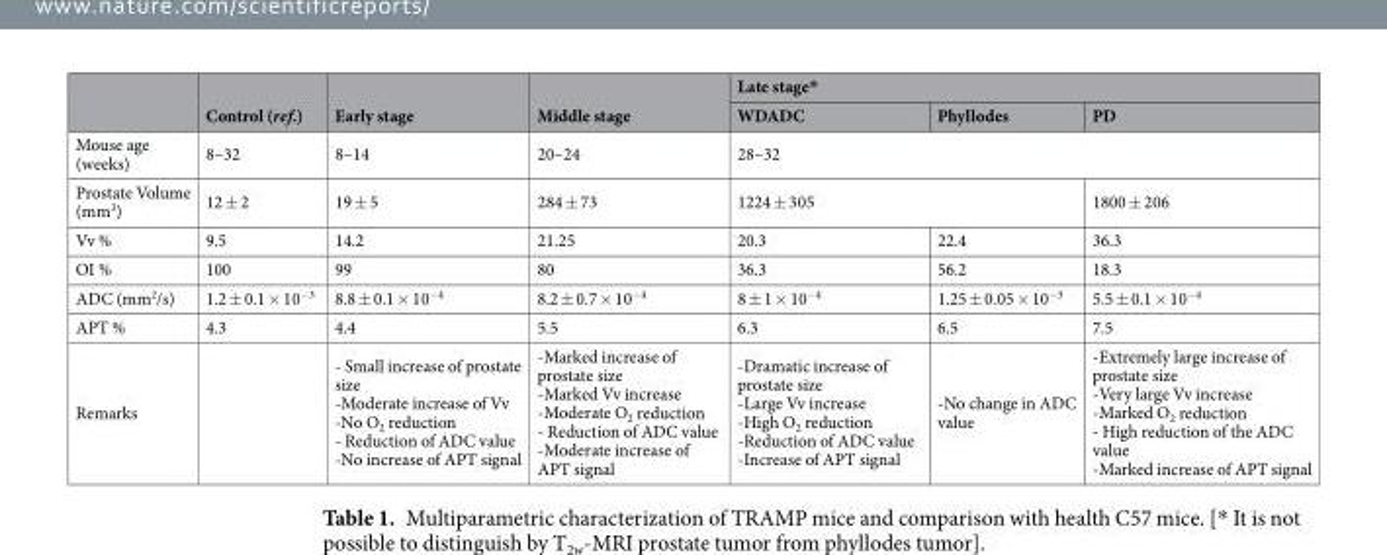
<table><thead><tr><td rowspan="2"></td><td rowspan="2">Control (ref.)</td><td rowspan="2">Early stage</td><td rowspan="2">Middle stage</td><td colspan="3">Late stage*</td></tr><tr><td>WDADC</td><td>Phyllodes</td><td>PD</td></tr></thead><tbody><tr><td>Mouse age (weeks)</td><td>8–32</td><td>8–14</td><td>20–24</td><td colspan="3">28–32</td></tr><tr><td>Prostate Volume (mm<sup>3</sup>)</td><td>12 ± 2</td><td>19 ± 5</td><td>284 ± 73</td><td colspan="2">1224 ± 305</td><td>1800 ± 206</td></tr><tr><td>Vv %</td><td>9.5</td><td>14.2</td><td>21.25</td><td>20.3</td><td>22.4</td><td>36.3</td></tr><tr><td>OI %</td><td>100</td><td>99</td><td>80</td><td>36.3</td><td>56.2</td><td>18.3</td></tr><tr><td>ADC (mm<sup>2</sup>/s)</td><td>1.2 ± 0.1 × 10<sup>−3</sup></td><td>8.8 ± 0.1 × 10<sup>−4</sup></td><td>8.2 ± 0.7 × 10<sup>−4</sup></td><td>8 ± 1 × 10<sup>−4</sup></td><td>1.25 ± 0.05 × 10<sup>−3</sup></td><td>5.5 ± 0.1 × 10<sup>−4</sup></td></tr><tr><td>APT %</td><td>4.3</td><td>4.4</td><td>5.5</td><td>6.3</td><td>6.5</td><td>7.5</td></tr><tr><td>Remarks</td><td></td><td>- Small increase of prostate size -Moderate increase of Vv -No O<sub>2</sub> reduction - Reduction of ADC value -No increase of APT signal</td><td>-Marked increase of prostate size -Marked Vv increase -Moderate O<sub>2</sub> reduction - Reduction of ADC value -Moderate increase of APT signal</td><td>-Dramatic increase of prostate size -Large Vv increase -High O<sub>2</sub> reduction -Reduction of ADC value -Increase of APT signal</td><td>-No change in ADC value</td><td>-Extremely large increase of prostate size -Very large Vv increase -Marked O<sub>2</sub> reduction - High reduction of the ADC value -Marked increase of APT signal</td></tr></tbody></table>